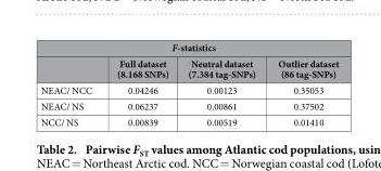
<table><thead><tr><td colspan="4">F-statistics</td></tr><tr><td></td><td>Full dataset (8.168 SNPs)</td><td>Neutral dataset (7.384 tag-SNPs)</td><td>Outlier dataset (86 tag-SNPs)</td></tr></thead><tbody><tr><td>NEAC/ NCC</td><td>0.04246</td><td>0.00123</td><td>0.35053</td></tr><tr><td>NEAC/ NS</td><td>0.06237</td><td>0.00861</td><td>0.37502</td></tr><tr><td>NCC/ NS</td><td>0.00839</td><td>0.00519</td><td>0.01410</td></tr></tbody></table>